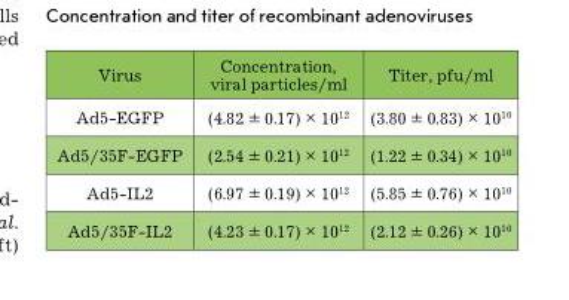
<table><thead><tr><td>Virus</td><td>Concentration, viral particles/ml</td><td>Titer, pfu/ml</td></tr></thead><tbody><tr><td>Ad5-EGFP</td><td>(4.82 ± 0.17) × 10<sup>12</sup></td><td>(3.80 ± 0.83) × 10<sup>10</sup></td></tr><tr><td>Ad5/35F-EGFP</td><td>(2.54 ± 0.21) × 10<sup>12</sup></td><td>(1.22 ± 0.34) × 10<sup>10</sup></td></tr><tr><td>Ad5-IL2</td><td>(6.97 ± 0.19) × 10<sup>12</sup></td><td>(5.85 ± 0.76) × 10<sup>10</sup></td></tr><tr><td>Ad5/35F-IL2</td><td>(4.23 ± 0.17) × 10<sup>12</sup></td><td>(2.12 ± 0.26) × 10<sup>10</sup></td></tr></tbody></table>